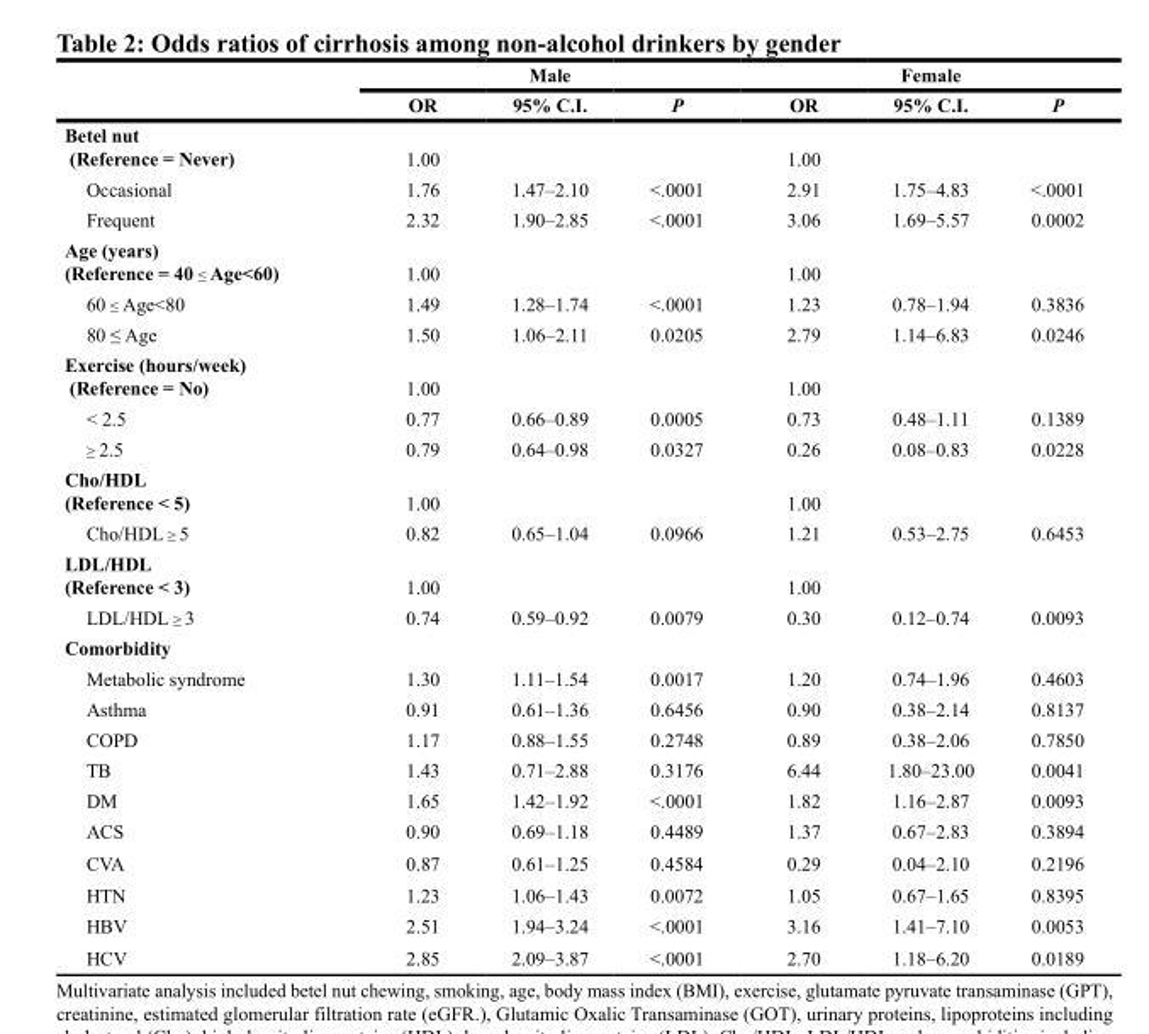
<table><thead><tr><td rowspan="2"></td><td colspan="3">Male</td><td colspan="3">Female</td></tr><tr><td>OR</td><td>95% C.I.</td><td>P</td><td>OR</td><td>95% C.I.</td><td>P</td></tr></thead><tbody><tr><td>Betel nut (Reference = Never)</td><td>1.00</td><td></td><td></td><td>1.00</td><td></td><td></td></tr><tr><td>Occasional</td><td>1.76</td><td>1.47–2.10</td><td>&lt;.0001</td><td>2.91</td><td>1.75–4.83</td><td>&lt;.0001</td></tr><tr><td>Frequent</td><td>2.32</td><td>1.90–2.85</td><td>&lt;.0001</td><td>3.06</td><td>1.69–5.57</td><td>0.0002</td></tr><tr><td>Age (years) (Reference = 40 ≤ Age&lt;60)</td><td>1.00</td><td></td><td></td><td>1.00</td><td></td><td></td></tr><tr><td>60 ≤ Age&lt;80</td><td>1.49</td><td>1.28–1.74</td><td>&lt;.0001</td><td>1.23</td><td>0.78–1.94</td><td>0.3836</td></tr><tr><td>80 ≤ Age</td><td>1.50</td><td>1.06–2.11</td><td>0.0205</td><td>2.79</td><td>1.14–6.83</td><td>0.0246</td></tr><tr><td>Exercise (hours/week) (Reference = No)</td><td>1.00</td><td></td><td></td><td>1.00</td><td></td><td></td></tr><tr><td>&lt; 2.5</td><td>0.77</td><td>0.66–0.89</td><td>0.0005</td><td>0.73</td><td>0.48–1.11</td><td>0.1389</td></tr><tr><td>≥ 2.5</td><td>0.79</td><td>0.64–0.98</td><td>0.0327</td><td>0.26</td><td>0.08–0.83</td><td>0.0228</td></tr><tr><td>Cho/HDL (Reference &lt; 5)</td><td>1.00</td><td></td><td></td><td>1.00</td><td></td><td></td></tr><tr><td>Cho/HDL ≥ 5</td><td>0.82</td><td>0.65–1.04</td><td>0.0966</td><td>1.21</td><td>0.53–2.75</td><td>0.6453</td></tr><tr><td>LDL/HDL (Reference &lt; 3)</td><td>1.00</td><td></td><td></td><td>1.00</td><td></td><td></td></tr><tr><td>LDL/HDL ≥ 3</td><td>0.74</td><td>0.59–0.92</td><td>0.0079</td><td>0.30</td><td>0.12–0.74</td><td>0.0093</td></tr><tr><td colspan="7">Comorbidity</td></tr><tr><td>Metabolic syndrome</td><td>1.30</td><td>1.11–1.54</td><td>0.0017</td><td>1.20</td><td>0.74–1.96</td><td>0.4603</td></tr><tr><td>Asthma</td><td>0.91</td><td>0.61–1.36</td><td>0.6456</td><td>0.90</td><td>0.38–2.14</td><td>0.8137</td></tr><tr><td>COPD</td><td>1.17</td><td>0.88–1.55</td><td>0.2748</td><td>0.89</td><td>0.38–2.06</td><td>0.7850</td></tr><tr><td>TB</td><td>1.43</td><td>0.71–2.88</td><td>0.3176</td><td>6.44</td><td>1.80–23.00</td><td>0.0041</td></tr><tr><td>DM</td><td>1.65</td><td>1.42–1.92</td><td>&lt;.0001</td><td>1.82</td><td>1.16–2.87</td><td>0.0093</td></tr><tr><td>ACS</td><td>0.90</td><td>0.69–1.18</td><td>0.4489</td><td>1.37</td><td>0.67–2.83</td><td>0.3894</td></tr><tr><td>CVA</td><td>0.87</td><td>0.61–1.25</td><td>0.4584</td><td>0.29</td><td>0.04–2.10</td><td>0.2196</td></tr><tr><td>HTN</td><td>1.23</td><td>1.06–1.43</td><td>0.0072</td><td>1.05</td><td>0.67–1.65</td><td>0.8395</td></tr><tr><td>HBV</td><td>2.51</td><td>1.94–3.24</td><td>&lt;.0001</td><td>3.16</td><td>1.41–7.10</td><td>0.0053</td></tr><tr><td>HCV</td><td>2.85</td><td>2.09–3.87</td><td>&lt;.0001</td><td>2.70</td><td>1.18–6.20</td><td>0.0189</td></tr></tbody></table>